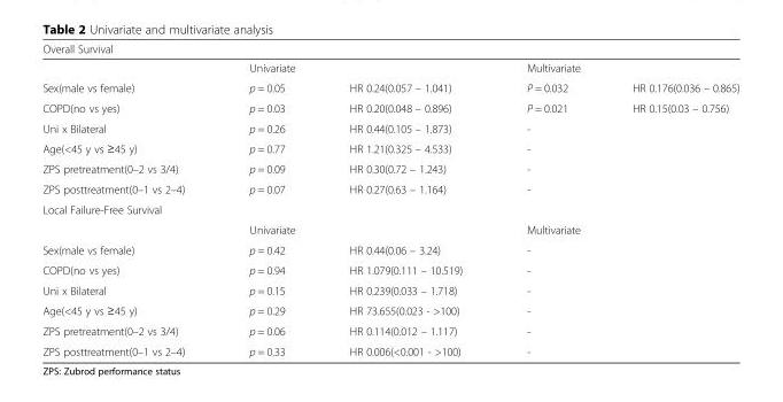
<table><thead><tr><td colspan="5">Overall Survival</td></tr><tr><td rowspan="2">Sex(male vs female)</td><td colspan="2">Univariate</td><td colspan="2">Multivariate</td></tr><tr><td>p = 0.05</td><td>HR 0.24(0.057 – 1.041)</td><td>P = 0.032</td><td>HR 0.176(0.036 – 0.865)</td></tr></thead><tbody><tr><td>COPD(no vs yes)</td><td>p = 0.03</td><td>HR 0.20(0.048 – 0.896)</td><td>P = 0.021</td><td>HR 0.15(0.03 – 0.756)</td></tr><tr><td>Uni x Bilateral</td><td>p = 0.26</td><td>HR 0.44(0.105 – 1.873)</td><td colspan="2">-</td></tr><tr><td>Age(&lt;45 y vs ≥45 y)</td><td>p = 0.77</td><td>HR 1.21(0.325 – 4.533)</td><td colspan="2">-</td></tr><tr><td>ZPS pretreatment(0–2 vs 3/4)</td><td>p = 0.09</td><td>HR 0.30(0.72 – 1.243)</td><td colspan="2">-</td></tr><tr><td>ZPS posttreatment(0–1 vs 2–4)</td><td>p = 0.07</td><td>HR 0.27(0.63 – 1.164)</td><td colspan="2">-</td></tr><tr><td colspan="5">Local Failure-Free Survival</td></tr><tr><td></td><td colspan="2">Univariate</td><td colspan="2">Multivariate</td></tr><tr><td>Sex(male vs female)</td><td>p = 0.42</td><td>HR 0.44(0.06 – 3.24)</td><td colspan="2">-</td></tr><tr><td>COPD(no vs yes)</td><td>p = 0.94</td><td>HR 1.079(0.111 – 10.519)</td><td colspan="2">-</td></tr><tr><td>Uni x Bilateral</td><td>p = 0.15</td><td>HR 0.239(0.033 – 1.718)</td><td colspan="2">-</td></tr><tr><td>Age(&lt;45 y vs ≥45 y)</td><td>p = 0.29</td><td>HR 73.655(0.023 - &gt;100)</td><td colspan="2">-</td></tr><tr><td>ZPS pretreatment(0–2 vs 3/4)</td><td>p = 0.06</td><td>HR 0.114(0.012 – 1.117)</td><td colspan="2">-</td></tr><tr><td>ZPS posttreatment(0–1 vs 2–4)</td><td>p = 0.33</td><td>HR 0.006(&lt;0.001 - &gt;100)</td><td colspan="2">-</td></tr></tbody></table>